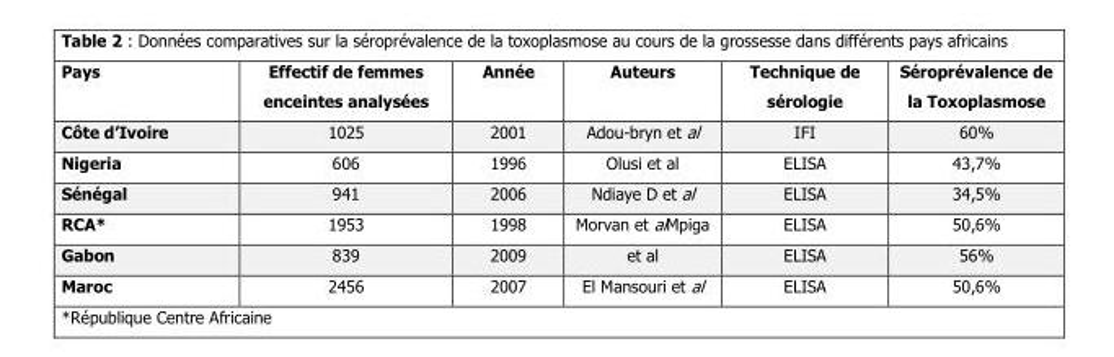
<table><thead><tr><td>Pays</td><td>Effectif de femmes enceintes analysées</td><td>Année</td><td>Auteurs</td><td>Technique de sérologie</td><td>Séroprévalence de la Toxoplasmose</td></tr></thead><tbody><tr><td>Côte d’Ivoire</td><td>1025</td><td>2001</td><td>Adou-bryn et al</td><td>IFI</td><td>60%</td></tr><tr><td>Nigeria</td><td>606</td><td>1996</td><td>Olusi et al</td><td>ELISA</td><td>43,7%</td></tr><tr><td>Sénégal</td><td>941</td><td>2006</td><td>Ndiaye D et al</td><td>ELISA</td><td>34,5%</td></tr><tr><td>RCA*</td><td>1953</td><td>1998</td><td>Morvan et alMpiga</td><td>ELISA</td><td>50,6%</td></tr><tr><td>Gabon</td><td>839</td><td>2009</td><td>et al</td><td>ELISA</td><td>56%</td></tr><tr><td>Maroc</td><td>2456</td><td>2007</td><td>El Mansouri et al</td><td>ELISA</td><td>50,6%</td></tr></tbody></table>